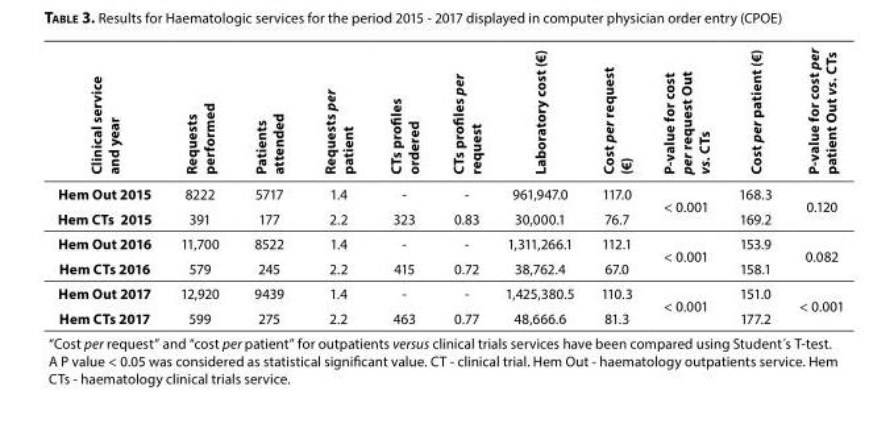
<table><thead><tr><td>Clinical service and year</td><td>Requests performed</td><td>Patients attended</td><td>Requests per patient</td><td>CTs profiles ordered</td><td>CTs profiles per request</td><td>Laboratory cost (€)</td><td>Cost per request (€)</td><td>P-value for cost per request Out vs. CTs</td><td>Cost per patient (€)</td><td>P-value for cost per patient Out vs. CTs</td></tr></thead><tbody><tr><td>Hem Out 2015</td><td>8222</td><td>5717</td><td>1.4</td><td>-</td><td>-</td><td>961,947.0</td><td>117.0</td><td rowspan="2">&lt; 0.001</td><td>168.3</td><td rowspan="2">0.120</td></tr><tr><td>Hem CTs 2015</td><td>391</td><td>177</td><td>2.2</td><td>323</td><td>0.83</td><td>30,000.1</td><td>76.7</td><td>169.2</td></tr><tr><td>Hem Out 2016</td><td>11,700</td><td>8522</td><td>1.4</td><td>-</td><td>-</td><td>1,311,266.1</td><td>112.1</td><td rowspan="2">&lt; 0.001</td><td>153.9</td><td rowspan="2">0.082</td></tr><tr><td>Hem CTs 2016</td><td>579</td><td>245</td><td>2.2</td><td>415</td><td>0.72</td><td>38,762.4</td><td>67.0</td><td>158.1</td></tr><tr><td>Hem Out 2017</td><td>12,920</td><td>9439</td><td>1.4</td><td>-</td><td>-</td><td>1,425,380.5</td><td>110.3</td><td rowspan="2">&lt; 0.001</td><td>151.0</td><td rowspan="2">&lt; 0.001</td></tr><tr><td>Hem CTs 2017</td><td>599</td><td>275</td><td>2.2</td><td>463</td><td>0.77</td><td>48,666.6</td><td>81.3</td><td>177.2</td></tr><tr><td colspan="11">“Cost per request” and “cost per patient” for outpatients versus clinical trials services have been compared using Student´s T-test. A P value &lt; 0.05 was considered as statistical significant value. CT - clinical trial. Hem Out - haematology outpatients service. Hem CTs - haematology clinical trials service.</td></tr></tbody></table>